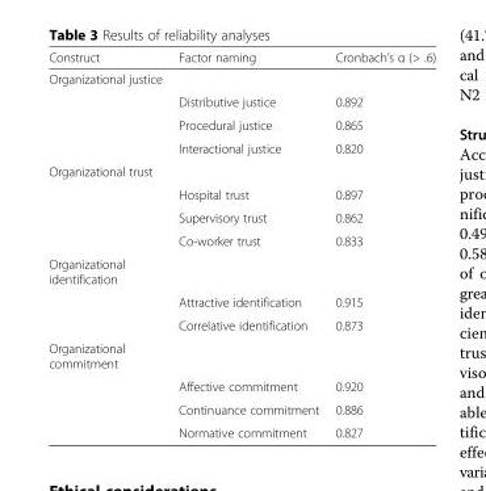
<table><thead><tr><td>Construct</td><td>Factor naming</td><td>Cronbach’s α (&gt; .6)</td></tr></thead><tbody><tr><td colspan="3">Organizational justice</td></tr><tr><td></td><td>Distributive justice</td><td>0.892</td></tr><tr><td></td><td>Procedural justice</td><td>0.865</td></tr><tr><td></td><td>Interactional justice</td><td>0.820</td></tr><tr><td colspan="3">Organizational trust</td></tr><tr><td></td><td>Hospital trust</td><td>0.897</td></tr><tr><td></td><td>Supervisory trust</td><td>0.862</td></tr><tr><td></td><td>Co-worker trust</td><td>0.833</td></tr><tr><td colspan="3">Organizational identification</td></tr><tr><td></td><td>Attractive identification</td><td>0.915</td></tr><tr><td></td><td>Correlative identification</td><td>0.873</td></tr><tr><td colspan="3">Organizational commitment</td></tr><tr><td></td><td>Affective commitment</td><td>0.920</td></tr><tr><td></td><td>Continuance commitment</td><td>0.886</td></tr><tr><td></td><td>Normative commitment</td><td>0.827</td></tr></tbody></table>